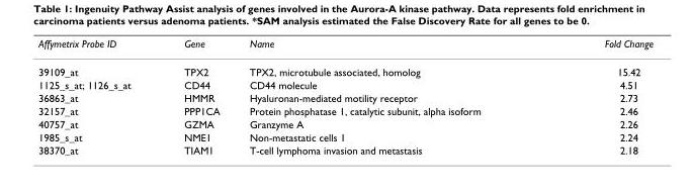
<table><thead><tr><td>Affymetrix Probe ID</td><td>Gene</td><td>Name</td><td>Fold Change</td></tr></thead><tbody><tr><td>39109_at</td><td>TPX2</td><td>TPX2, microtubule associated, homolog</td><td>15.42</td></tr><tr><td>1125_s_at; 1126_s_at</td><td>CD44</td><td>CD44 molecule</td><td>4.51</td></tr><tr><td>36863_at</td><td>HMMR</td><td>Hyaluronan-mediated motility receptor</td><td>2.73</td></tr><tr><td>32157_at</td><td>PPP1CA</td><td>Protein phosphatase 1, catalytic subunit, alpha isoform</td><td>2.46</td></tr><tr><td>40757_at</td><td>GZMA</td><td>Granzyme A</td><td>2.26</td></tr><tr><td>1985_s_at</td><td>NME1</td><td>Non-metastatic cells 1</td><td>2.24</td></tr><tr><td>38370_at</td><td>TIAM1</td><td>T-cell lymphoma invasion and metastasis</td><td>2.18</td></tr></tbody></table>